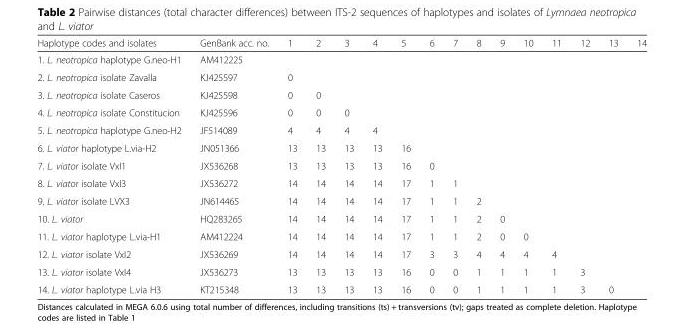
<table><thead><tr><td>Haplotype codes and isolates</td><td>GenBank acc. no.</td><td>1</td><td>2</td><td>3</td><td>4</td><td>5</td><td>6</td><td>7</td><td>8</td><td>9</td><td>10</td><td>11</td><td>12</td><td>13</td><td>14</td></tr></thead><tbody><tr><td>1. L. neotropica haplotype G.neo-H1</td><td>AM412225</td><td></td><td></td><td></td><td></td><td></td><td></td><td></td><td></td><td></td><td></td><td></td><td></td><td></td><td></td></tr><tr><td>2. L. neotropica isolate Zavalla</td><td>KJ425597</td><td>0</td><td></td><td></td><td></td><td></td><td></td><td></td><td></td><td></td><td></td><td></td><td></td><td></td><td></td></tr><tr><td>3. L. neotropica isolate Caseros</td><td>KJ425598</td><td>0</td><td>0</td><td></td><td></td><td></td><td></td><td></td><td></td><td></td><td></td><td></td><td></td><td></td><td></td></tr><tr><td>4. L. neotropica isolate Constitucion</td><td>KJ425596</td><td>0</td><td>0</td><td>0</td><td></td><td></td><td></td><td></td><td></td><td></td><td></td><td></td><td></td><td></td><td></td></tr><tr><td>5. L. neotropica haplotype G.neo-H2</td><td>JF514089</td><td>4</td><td>4</td><td>4</td><td>4</td><td></td><td></td><td></td><td></td><td></td><td></td><td></td><td></td><td></td><td></td></tr><tr><td>6. L. viator haplotype L.via-H2</td><td>JN051366</td><td>13</td><td>13</td><td>13</td><td>13</td><td>16</td><td></td><td></td><td></td><td></td><td></td><td></td><td></td><td></td><td></td></tr><tr><td>7. L. viator isolate VxI1</td><td>JX536268</td><td>13</td><td>13</td><td>13</td><td>13</td><td>16</td><td>0</td><td></td><td></td><td></td><td></td><td></td><td></td><td></td><td></td></tr><tr><td>8. L. viator isolate VxI3</td><td>JX536272</td><td>14</td><td>14</td><td>14</td><td>14</td><td>17</td><td>1</td><td>1</td><td></td><td></td><td></td><td></td><td></td><td></td><td></td></tr><tr><td>9. L. viator isolate LVX3</td><td>JN614465</td><td>14</td><td>14</td><td>14</td><td>14</td><td>17</td><td>1</td><td>1</td><td>2</td><td></td><td></td><td></td><td></td><td></td><td></td></tr><tr><td>10. L. viator</td><td>HQ283265</td><td>14</td><td>14</td><td>14</td><td>14</td><td>17</td><td>1</td><td>1</td><td>2</td><td>0</td><td></td><td></td><td></td><td></td><td></td></tr><tr><td>11. L. viator haplotype L.via-H1</td><td>AM412224</td><td>14</td><td>14</td><td>14</td><td>14</td><td>17</td><td>1</td><td>1</td><td>2</td><td>0</td><td>0</td><td></td><td></td><td></td><td></td></tr><tr><td>12. L. viator isolate VxI2</td><td>JX536269</td><td>14</td><td>14</td><td>14</td><td>14</td><td>17</td><td>3</td><td>3</td><td>4</td><td>4</td><td>4</td><td>4</td><td></td><td></td><td></td></tr><tr><td>13. L. viator isolate VxI4</td><td>JX536273</td><td>13</td><td>13</td><td>13</td><td>13</td><td>16</td><td>0</td><td>0</td><td>1</td><td>1</td><td>1</td><td>1</td><td>3</td><td></td><td></td></tr><tr><td>14. L. viator haplotype L.via H3</td><td>KT215348</td><td>13</td><td>13</td><td>13</td><td>13</td><td>16</td><td>0</td><td>0</td><td>1</td><td>1</td><td>1</td><td>1</td><td>3</td><td>0</td><td></td></tr></tbody></table>